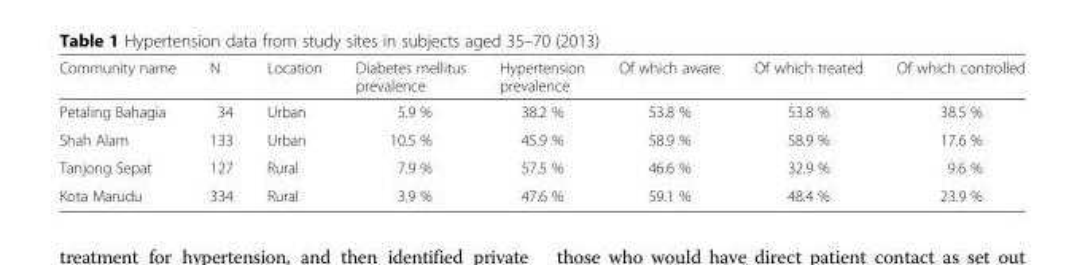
<table><thead><tr><td>Community name</td><td>N</td><td>Location</td><td>Diabetes mellitus prevalence</td><td>Hypertension prevalence</td><td>Of which aware</td><td>Of which treated</td><td>Of which controlled</td></tr></thead><tbody><tr><td>Petaling Bahagia</td><td>34</td><td>Urban</td><td>5.9 %</td><td>38.2 %</td><td>53.8 %</td><td>53.8 %</td><td>38.5 %</td></tr><tr><td>Shah Alam</td><td>133</td><td>Urban</td><td>10.5 %</td><td>45.9 %</td><td>58.9 %</td><td>58.9 %</td><td>17.6 %</td></tr><tr><td>Tanjong Sepat</td><td>127</td><td>Rural</td><td>7.9 %</td><td>57.5 %</td><td>46.6 %</td><td>32.9 %</td><td>9.6 %</td></tr><tr><td>Kota Marudu</td><td>334</td><td>Rural</td><td>3.9 %</td><td>47.6 %</td><td>59.1 %</td><td>48.4 %</td><td>23.9 %</td></tr></tbody></table>